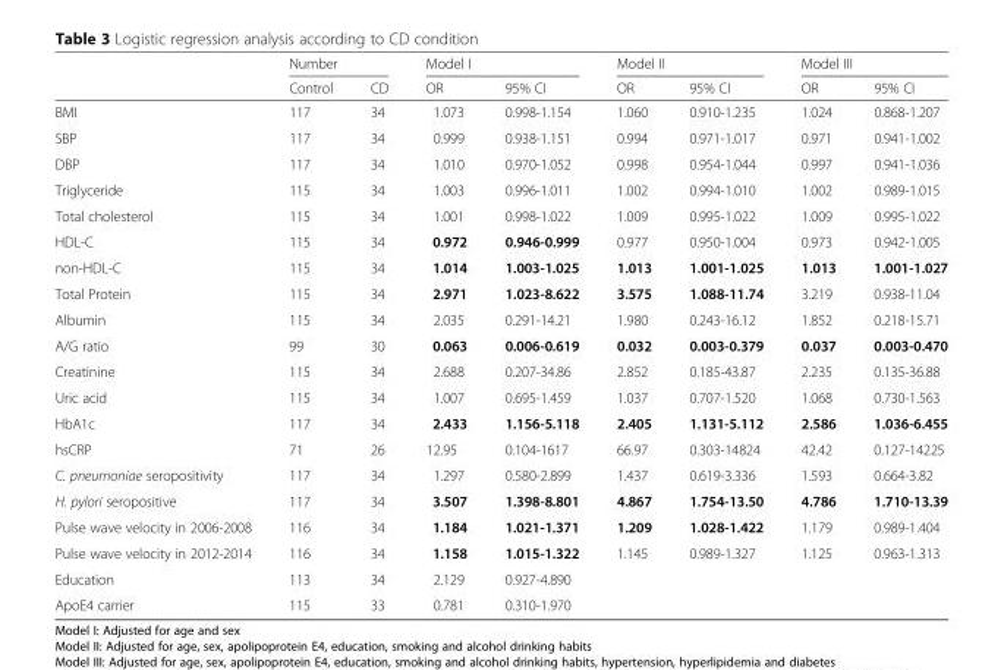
<table><thead><tr><td rowspan="2"></td><td colspan="2">Number</td><td colspan="2">Model I</td><td colspan="2">Model II</td><td colspan="2">Model III</td></tr><tr><td>Control</td><td>CD</td><td>OR</td><td>95% CI</td><td>OR</td><td>95% CI</td><td>OR</td><td>95% CI</td></tr></thead><tbody><tr><td>BMI</td><td>117</td><td>34</td><td>1.073</td><td>0.998-1.154</td><td>1.060</td><td>0.910-1.235</td><td>1.024</td><td>0.868-1.207</td></tr><tr><td>SBP</td><td>117</td><td>34</td><td>0.999</td><td>0.938-1.151</td><td>0.994</td><td>0.971-1.017</td><td>0.971</td><td>0.941-1.002</td></tr><tr><td>DBP</td><td>117</td><td>34</td><td>1.010</td><td>0.970-1.052</td><td>0.998</td><td>0.954-1.044</td><td>0.997</td><td>0.941-1.036</td></tr><tr><td>Triglyceride</td><td>115</td><td>34</td><td>1.003</td><td>0.996-1.011</td><td>1.002</td><td>0.994-1.010</td><td>1.002</td><td>0.989-1.015</td></tr><tr><td>Total cholesterol</td><td>115</td><td>34</td><td>1.001</td><td>0.998-1.022</td><td>1.009</td><td>0.995-1.022</td><td>1.009</td><td>0.995-1.022</td></tr><tr><td>HDL-C</td><td>115</td><td>34</td><td>0.972</td><td>0.946-0.999</td><td>0.977</td><td>0.950-1.004</td><td>0.973</td><td>0.942-1.005</td></tr><tr><td>non-HDL-C</td><td>115</td><td>34</td><td>1.014</td><td>1.003-1.025</td><td>1.013</td><td>1.001-1.025</td><td>1.013</td><td>1.001-1.027</td></tr><tr><td>Total Protein</td><td>115</td><td>34</td><td>2.971</td><td>1.023-8.622</td><td>3.575</td><td>1.088-11.74</td><td>3.219</td><td>0.938-11.04</td></tr><tr><td>Albumin</td><td>115</td><td>34</td><td>2.035</td><td>0.291-14.21</td><td>1.980</td><td>0.243-16.12</td><td>1.852</td><td>0.218-15.71</td></tr><tr><td>A/G ratio</td><td>99</td><td>30</td><td>0.063</td><td>0.006-0.619</td><td>0.032</td><td>0.003-0.379</td><td>0.037</td><td>0.003-0.470</td></tr><tr><td>Creatinine</td><td>115</td><td>34</td><td>2.688</td><td>0.207-34.86</td><td>2.852</td><td>0.185-43.87</td><td>2.235</td><td>0.135-36.88</td></tr><tr><td>Uric acid</td><td>115</td><td>34</td><td>1.007</td><td>0.695-1.459</td><td>1.037</td><td>0.707-1.520</td><td>1.068</td><td>0.730-1.563</td></tr><tr><td>HbA1c</td><td>117</td><td>34</td><td>2.433</td><td>1.156-5.118</td><td>2.405</td><td>1.131-5.112</td><td>2.586</td><td>1.036-6.455</td></tr><tr><td>hsCRP</td><td>71</td><td>26</td><td>12.95</td><td>0.104-1617</td><td>66.97</td><td>0.303-14824</td><td>42.42</td><td>0.127-14225</td></tr><tr><td>C. pneumoniae seropositivity</td><td>117</td><td>34</td><td>1.297</td><td>0.580-2.899</td><td>1.437</td><td>0.619-3.336</td><td>1.593</td><td>0.664-3.82</td></tr><tr><td>H. pylori seropositive</td><td>117</td><td>34</td><td>3.507</td><td>1.398-8.801</td><td>4.867</td><td>1.754-13.50</td><td>4.786</td><td>1.710-13.39</td></tr><tr><td>Pulse wave velocity in 2006-2008</td><td>116</td><td>34</td><td>1.184</td><td>1.021-1.371</td><td>1.209</td><td>1.028-1.422</td><td>1.179</td><td>0.989-1.404</td></tr><tr><td>Pulse wave velocity in 2012-2014</td><td>116</td><td>34</td><td>1.158</td><td>1.015-1.322</td><td>1.145</td><td>0.989-1.327</td><td>1.125</td><td>0.963-1.313</td></tr><tr><td>Education</td><td>113</td><td>34</td><td>2.129</td><td>0.927-4.890</td><td></td><td></td><td></td><td></td></tr><tr><td>ApoE4 carrier</td><td>115</td><td>33</td><td>0.781</td><td>0.310-1.970</td><td></td><td></td><td></td><td></td></tr></tbody></table>